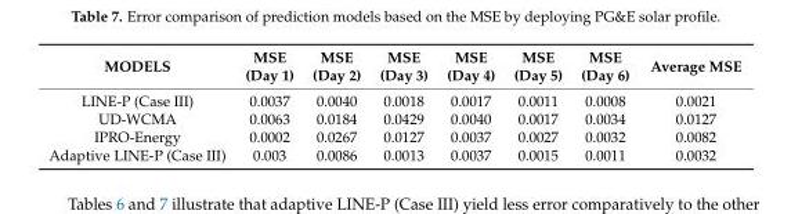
<table><thead><tr><td>MODELS</td><td>MSE (Day 1)</td><td>MSE (Day 2)</td><td>MSE (Day 3)</td><td>MSE (Day 4)</td><td>MSE (Day 5)</td><td>MSE (Day 6)</td><td>Average MSE</td></tr></thead><tbody><tr><td>LINE-P (Case III)</td><td>0.0037</td><td>0.0040</td><td>0.0018</td><td>0.0017</td><td>0.0011</td><td>0.0008</td><td>0.0021</td></tr><tr><td>UD-WCMA</td><td>0.0063</td><td>0.0184</td><td>0.0429</td><td>0.0040</td><td>0.0017</td><td>0.0034</td><td>0.0127</td></tr><tr><td>IPRO-Energy</td><td>0.0002</td><td>0.0267</td><td>0.0127</td><td>0.0037</td><td>0.0027</td><td>0.0032</td><td>0.0082</td></tr><tr><td>Adaptive LINE-P (Case III)</td><td>0.003</td><td>0.0086</td><td>0.0013</td><td>0.0037</td><td>0.0015</td><td>0.0011</td><td>0.0032</td></tr></tbody></table>